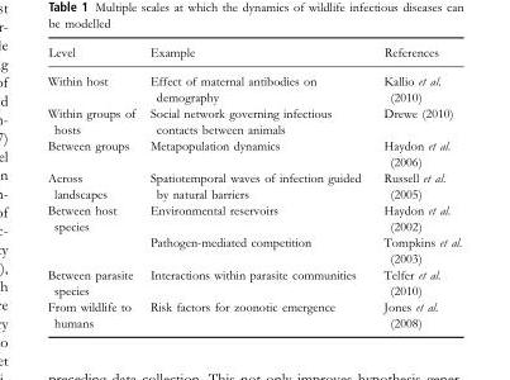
<table><thead><tr><td>Level</td><td>Example</td><td>References</td></tr></thead><tbody><tr><td>Within host</td><td>Effect of maternal antibodies on demography</td><td>Kallio et al. (2010)</td></tr><tr><td>Within groups of hosts</td><td>Social network governing infectious contacts between animals</td><td>Drewe (2010)</td></tr><tr><td>Between groups</td><td>Metapopulation dynamics</td><td>Haydon et al. (2006)</td></tr><tr><td>Across landscapes</td><td>Spatiotemporal waves of infection guided by natural barriers</td><td>Russell et al. (2005)</td></tr><tr><td rowspan="2">Between host species</td><td>Environmental reservoirs</td><td>Haydon et al. (2002)</td></tr><tr><td>Pathogen-mediated competition</td><td>Tompkins et al. (2003)</td></tr><tr><td>Between parasite species</td><td>Interactions within parasite communities</td><td>Telfer et al. (2010)</td></tr><tr><td>From wildlife to humans</td><td>Risk factors for zoonotic emergence</td><td>Jones et al. (2008)</td></tr></tbody></table>